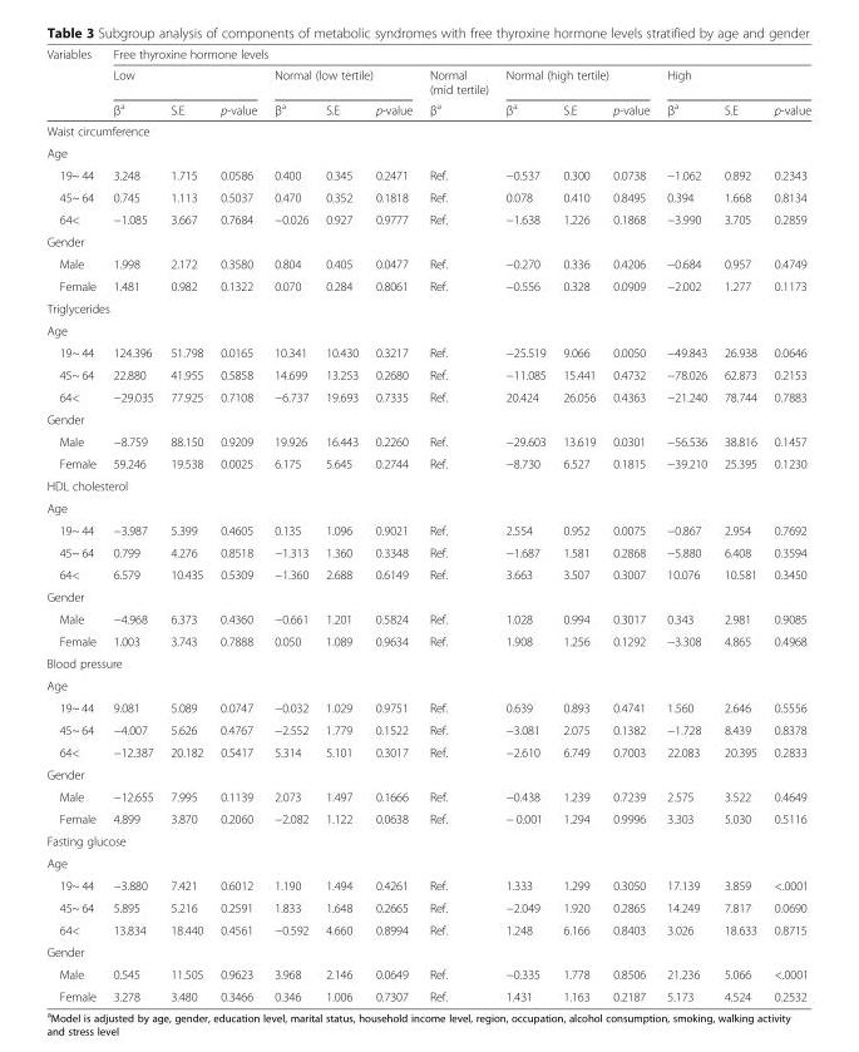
<table><thead><tr><td rowspan="3">Variables</td><td colspan="13">Free thyroxine hormone levels</td></tr><tr><td colspan="3">Low</td><td colspan="3">Normal (low tertile)</td><td rowspan="2">Normal (mid tertile) β<sup>a</sup></td><td colspan="3">Normal (high tertile)</td><td colspan="3">High</td></tr><tr><td>β<sup>a</sup></td><td>S.E</td><td>p-value</td><td>β<sup>a</sup></td><td>S.E</td><td>p-value</td><td>β<sup>a</sup></td><td>S.E</td><td>p-value</td><td>β<sup>a</sup></td><td>S.E</td><td>p-value</td></tr></thead><tbody><tr><td colspan="14">Waist circumference</td></tr><tr><td colspan="14">Age</td></tr><tr><td>19~ 44</td><td>3.248</td><td>1.715</td><td>0.0586</td><td>0.400</td><td>0.345</td><td>0.2471</td><td>Ref.</td><td>−0.537</td><td>0.300</td><td>0.0738</td><td>−1.062</td><td>0.892</td><td>0.2343</td></tr><tr><td>45~ 64</td><td>0.745</td><td>1.113</td><td>0.5037</td><td>0.470</td><td>0.352</td><td>0.1818</td><td>Ref.</td><td>0.078</td><td>0.410</td><td>0.8495</td><td>0.394</td><td>1.668</td><td>0.8134</td></tr><tr><td>64&lt;</td><td>−1.085</td><td>3.667</td><td>0.7684</td><td>−0.026</td><td>0.927</td><td>0.9777</td><td>Ref.</td><td>−1.638</td><td>1.226</td><td>0.1868</td><td>−3.990</td><td>3.705</td><td>0.2859</td></tr><tr><td colspan="14">Gender</td></tr><tr><td>Male</td><td>1.998</td><td>2.172</td><td>0.3580</td><td>0.804</td><td>0.405</td><td>0.0477</td><td>Ref.</td><td>−0.270</td><td>0.336</td><td>0.4206</td><td>−0.684</td><td>0.957</td><td>0.4749</td></tr><tr><td>Female</td><td>1.481</td><td>0.982</td><td>0.1322</td><td>0.070</td><td>0.284</td><td>0.8061</td><td>Ref.</td><td>−0.556</td><td>0.328</td><td>0.0909</td><td>−2.002</td><td>1.277</td><td>0.1173</td></tr><tr><td colspan="14">Triglycerides</td></tr><tr><td colspan="14">Age</td></tr><tr><td>19~ 44</td><td>124.396</td><td>51.798</td><td>0.0165</td><td>10.341</td><td>10.430</td><td>0.3217</td><td>Ref.</td><td>−25.519</td><td>9.066</td><td>0.0050</td><td>−49.843</td><td>26.938</td><td>0.0646</td></tr><tr><td>45~ 64</td><td>22.880</td><td>41.955</td><td>0.5858</td><td>14.699</td><td>13.253</td><td>0.2680</td><td>Ref.</td><td>−11.085</td><td>15.441</td><td>0.4732</td><td>−78.026</td><td>62.873</td><td>0.2153</td></tr><tr><td>64&lt;</td><td>−29.035</td><td>77.925</td><td>0.7108</td><td>−6.737</td><td>19.693</td><td>0.7335</td><td>Ref.</td><td>20.424</td><td>26.056</td><td>0.4363</td><td>−21.240</td><td>78.744</td><td>0.7883</td></tr><tr><td colspan="14">Gender</td></tr><tr><td>Male</td><td>−8.759</td><td>88.150</td><td>0.9209</td><td>19.926</td><td>16.443</td><td>0.2260</td><td>Ref.</td><td>−29.603</td><td>13.619</td><td>0.0301</td><td>−56.536</td><td>38.816</td><td>0.1457</td></tr><tr><td>Female</td><td>59.246</td><td>19.538</td><td>0.0025</td><td>6.175</td><td>5.645</td><td>0.2744</td><td>Ref.</td><td>−8.730</td><td>6.527</td><td>0.1815</td><td>−39.210</td><td>25.395</td><td>0.1230</td></tr><tr><td colspan="14">HDL cholesterol</td></tr><tr><td colspan="14">Age</td></tr><tr><td>19~ 44</td><td>−3.987</td><td>5.399</td><td>0.4605</td><td>0.135</td><td>1.096</td><td>0.9021</td><td>Ref.</td><td>2.554</td><td>0.952</td><td>0.0075</td><td>−0.867</td><td>2.954</td><td>0.7692</td></tr><tr><td>45~ 64</td><td>0.799</td><td>4.276</td><td>0.8518</td><td>−1.313</td><td>1.360</td><td>0.3348</td><td>Ref.</td><td>−1.687</td><td>1.581</td><td>0.2868</td><td>−5.880</td><td>6.408</td><td>0.3594</td></tr><tr><td>64&lt;</td><td>6.579</td><td>10.435</td><td>0.5309</td><td>−1.360</td><td>2.688</td><td>0.6149</td><td>Ref.</td><td>3.663</td><td>3.507</td><td>0.3007</td><td>10.076</td><td>10.581</td><td>0.3450</td></tr><tr><td colspan="14">Gender</td></tr><tr><td>Male</td><td>−4.968</td><td>6.373</td><td>0.4360</td><td>−0.661</td><td>1.201</td><td>0.5824</td><td>Ref.</td><td>1.028</td><td>0.994</td><td>0.3017</td><td>0.343</td><td>2.981</td><td>0.9085</td></tr><tr><td>Female</td><td>1.003</td><td>3.743</td><td>0.7888</td><td>0.050</td><td>1.089</td><td>0.9634</td><td>Ref.</td><td>1.908</td><td>1.256</td><td>0.1292</td><td>−3.308</td><td>4.865</td><td>0.4968</td></tr><tr><td colspan="14">Blood pressure</td></tr><tr><td colspan="14">Age</td></tr><tr><td>19~ 44</td><td>9.081</td><td>5.089</td><td>0.0747</td><td>−0.032</td><td>1.029</td><td>0.9751</td><td>Ref.</td><td>0.639</td><td>0.893</td><td>0.4741</td><td>1.560</td><td>2.646</td><td>0.5556</td></tr><tr><td>45~ 64</td><td>−4.007</td><td>5.626</td><td>0.4767</td><td>−2.552</td><td>1.779</td><td>0.1522</td><td>Ref.</td><td>−3.081</td><td>2.075</td><td>0.1382</td><td>−1.728</td><td>8.439</td><td>0.8378</td></tr><tr><td>64&lt;</td><td>−12.387</td><td>20.182</td><td>0.5417</td><td>5.314</td><td>5.101</td><td>0.3017</td><td>Ref.</td><td>−2.610</td><td>6.749</td><td>0.7003</td><td>22.083</td><td>20.395</td><td>0.2833</td></tr><tr><td colspan="14">Gender</td></tr><tr><td>Male</td><td>−12.655</td><td>7.995</td><td>0.1139</td><td>2.073</td><td>1.497</td><td>0.1666</td><td>Ref.</td><td>−0.438</td><td>1.239</td><td>0.7239</td><td>2.575</td><td>3.522</td><td>0.4649</td></tr><tr><td>Female</td><td>4.899</td><td>3.870</td><td>0.2060</td><td>−2.082</td><td>1.122</td><td>0.0638</td><td>Ref.</td><td>− 0.001</td><td>1.294</td><td>0.9996</td><td>3.303</td><td>5.030</td><td>0.5116</td></tr><tr><td colspan="14">Fasting glucose</td></tr><tr><td colspan="14">Age</td></tr><tr><td>19~ 44</td><td>−3.880</td><td>7.421</td><td>0.6012</td><td>1.190</td><td>1.494</td><td>0.4261</td><td>Ref.</td><td>1.333</td><td>1.299</td><td>0.3050</td><td>17.139</td><td>3.859</td><td>&lt;.0001</td></tr><tr><td>45~ 64</td><td>5.895</td><td>5.216</td><td>0.2591</td><td>1.833</td><td>1.648</td><td>0.2665</td><td>Ref.</td><td>−2.049</td><td>1.920</td><td>0.2865</td><td>14.249</td><td>7.817</td><td>0.0690</td></tr><tr><td>64&lt;</td><td>13.834</td><td>18.440</td><td>0.4561</td><td>−0.592</td><td>4.660</td><td>0.8994</td><td>Ref.</td><td>1.248</td><td>6.166</td><td>0.8403</td><td>3.026</td><td>18.633</td><td>0.8715</td></tr><tr><td colspan="14">Gender</td></tr><tr><td>Male</td><td>0.545</td><td>11.505</td><td>0.9623</td><td>3.968</td><td>2.146</td><td>0.0649</td><td>Ref.</td><td>−0.335</td><td>1.778</td><td>0.8506</td><td>21.236</td><td>5.066</td><td>&lt;.0001</td></tr><tr><td>Female</td><td>3.278</td><td>3.480</td><td>0.3466</td><td>0.346</td><td>1.006</td><td>0.7307</td><td>Ref.</td><td>1.431</td><td>1.163</td><td>0.2187</td><td>5.173</td><td>4.524</td><td>0.2532</td></tr></tbody></table>